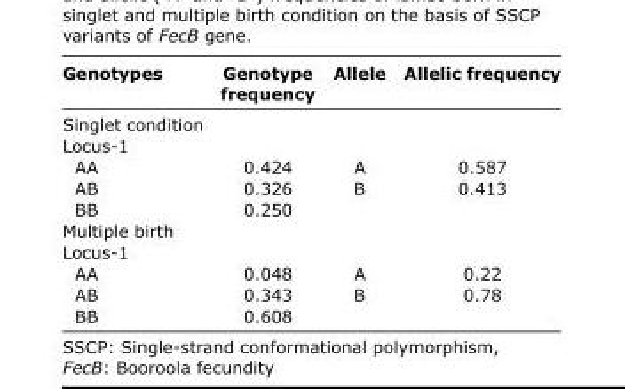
<table><thead><tr><td>Genotypes</td><td>Genotype frequency</td><td>Allele</td><td>Allelic frequency</td></tr></thead><tbody><tr><td colspan="4">Singlet condition</td></tr><tr><td colspan="4">Locus-1</td></tr><tr><td>AA</td><td>0.424</td><td>A</td><td>0.587</td></tr><tr><td>AB</td><td>0.326</td><td>B</td><td>0.413</td></tr><tr><td>BB</td><td>0.250</td><td></td><td></td></tr><tr><td colspan="4">Multiple birth</td></tr><tr><td colspan="4">Locus-1</td></tr><tr><td>AA</td><td>0.048</td><td>A</td><td>0.22</td></tr><tr><td>AB</td><td>0.343</td><td>B</td><td>0.78</td></tr><tr><td>BB</td><td>0.608</td><td></td><td></td></tr></tbody></table>